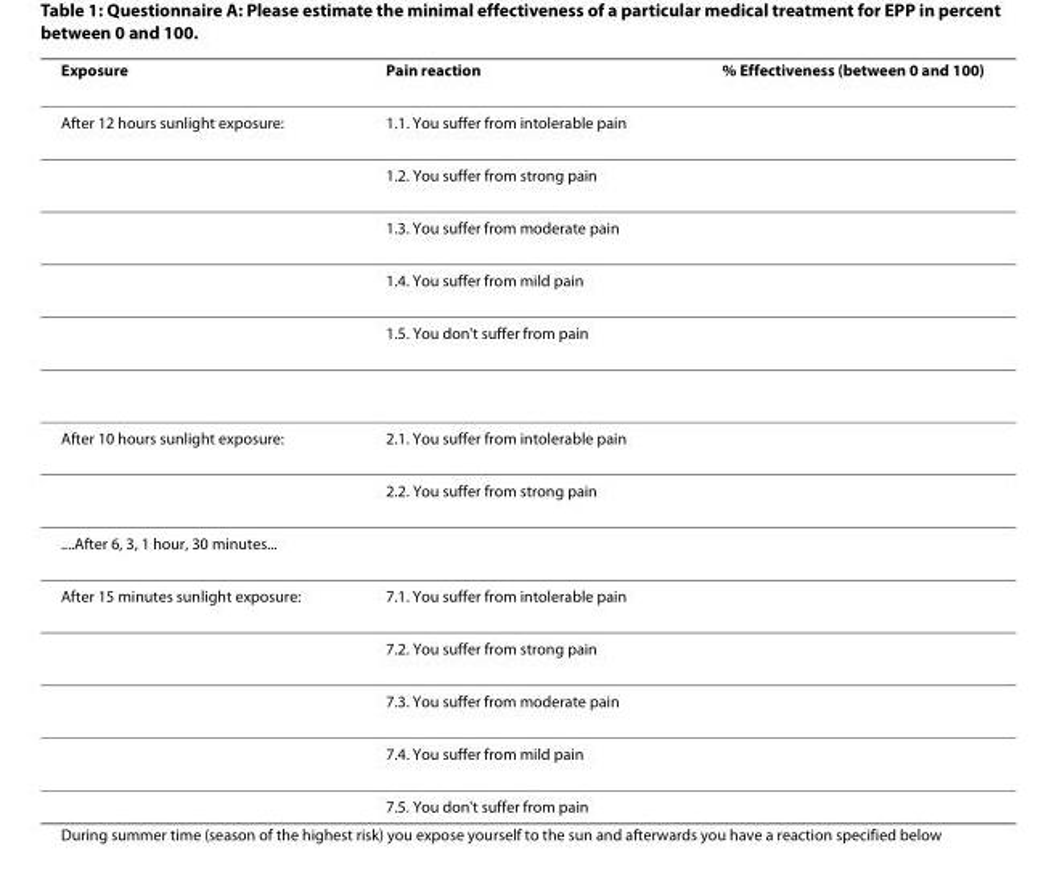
<table><thead><tr><td>Exposure</td><td>Pain reaction</td><td>% Effectiveness (between 0 and 100)</td></tr></thead><tbody><tr><td rowspan="5">After 12 hours sunlight exposure:</td><td>1.1. You suffer from intolerable pain</td><td></td></tr><tr><td>1.2. You suffer from strong pain</td><td></td></tr><tr><td>1.3. You suffer from moderate pain</td><td></td></tr><tr><td>1.4. You suffer from mild pain</td><td></td></tr><tr><td>1.5. You don&#x27;t suffer from pain</td><td></td></tr><tr><td rowspan="2">After 10 hours sunlight exposure:</td><td>2.1. You suffer from intolerable pain</td><td></td></tr><tr><td>2.2. You suffer from strong pain</td><td></td></tr><tr><td colspan="3">....After 6, 3, 1 hour, 30 minutes...</td></tr><tr><td rowspan="5">After 15 minutes sunlight exposure:</td><td>7.1. You suffer from intolerable pain</td><td></td></tr><tr><td>7.2. You suffer from strong pain</td><td></td></tr><tr><td>7.3. You suffer from moderate pain</td><td></td></tr><tr><td>7.4. You suffer from mild pain</td><td></td></tr><tr><td>7.5. You don&#x27;t suffer from pain</td><td></td></tr></tbody></table>